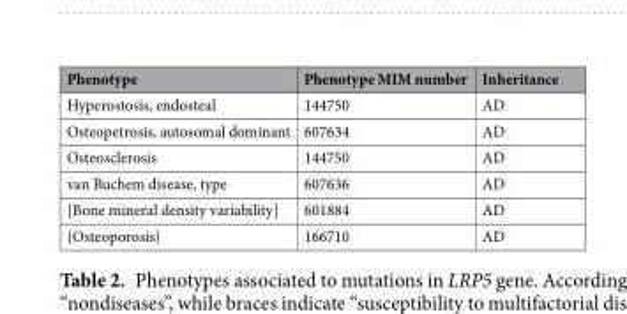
<table><thead><tr><td>Phenotype</td><td>Phenotype MIM number</td><td>Inheritance</td></tr></thead><tbody><tr><td>Hyperostosis, endosteal</td><td>144750</td><td>AD</td></tr><tr><td>Osteopetrosis, autosomal dominant</td><td>607634</td><td>AD</td></tr><tr><td>Osteosclerosis</td><td>144750</td><td>AD</td></tr><tr><td>van Buchem disease, type</td><td>607636</td><td>AD</td></tr><tr><td>[Bone mineral density variability]</td><td>601884</td><td>AD</td></tr><tr><td>{Osteoporosis}</td><td>166710</td><td>AD</td></tr></tbody></table>